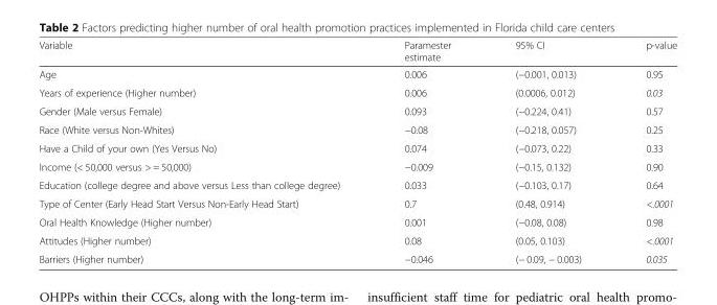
<table><thead><tr><td>Variable</td><td>Paramester estimate</td><td>95% CI</td><td>p-value</td></tr></thead><tbody><tr><td>Age</td><td>0.006</td><td>(−0.001, 0.013)</td><td>0.95</td></tr><tr><td>Years of experience (Higher number)</td><td>0.006</td><td>(0.0006, 0.012)</td><td>0.03</td></tr><tr><td>Gender (Male versus Female)</td><td>0.093</td><td>(−0.224, 0.41)</td><td>0.57</td></tr><tr><td>Race (White versus Non-Whites)</td><td>−0.08</td><td>(−0.218, 0.057)</td><td>0.25</td></tr><tr><td>Have a Child of your own (Yes Versus No)</td><td>0.074</td><td>(−0.073, 0.22)</td><td>0.33</td></tr><tr><td>Income (&lt; 50,000 versus &gt; = 50,000)</td><td>−0.009</td><td>(−0.15, 0.132)</td><td>0.90</td></tr><tr><td>Education (college degree and above versus Less than college degree)</td><td>0.033</td><td>(−0.103, 0.17)</td><td>0.64</td></tr><tr><td>Type of Center (Early Head Start Versus Non-Early Head Start)</td><td>0.7</td><td>(0.48, 0.914)</td><td>&lt;.0001</td></tr><tr><td>Oral Health Knowledge (Higher number)</td><td>0.001</td><td>(−0.08, 0.08)</td><td>0.98</td></tr><tr><td>Attitudes (Higher number)</td><td>0.08</td><td>(0.05, 0.103)</td><td>&lt;.0001</td></tr><tr><td>Barriers (Higher number)</td><td>−0.046</td><td>(− 0.09, − 0.003)</td><td>0.035</td></tr></tbody></table>